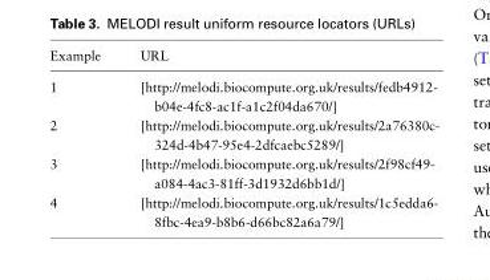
<table><thead><tr><td>Example</td><td>URL</td></tr></thead><tbody><tr><td>1</td><td>[http://melodi.biocompute.org.uk/results/fedb4912- b04e-4fc8-ac1f-a1c2f04da670/]</td></tr><tr><td>2</td><td>[http://melodi.biocompute.org.uk/results/2a76380c- 324d-4b47-95e4-2dfcaebc5289/]</td></tr><tr><td>3</td><td>[http://melodi.biocompute.org.uk/results/2f98cf49- a084-4ac3-81ff-3d1932d6bb1d/]</td></tr><tr><td>4</td><td>[http://melodi.biocompute.org.uk/results/1c5edda6- 8fbc-4ea9-b8b6-d66bc82a6a79/]</td></tr></tbody></table>